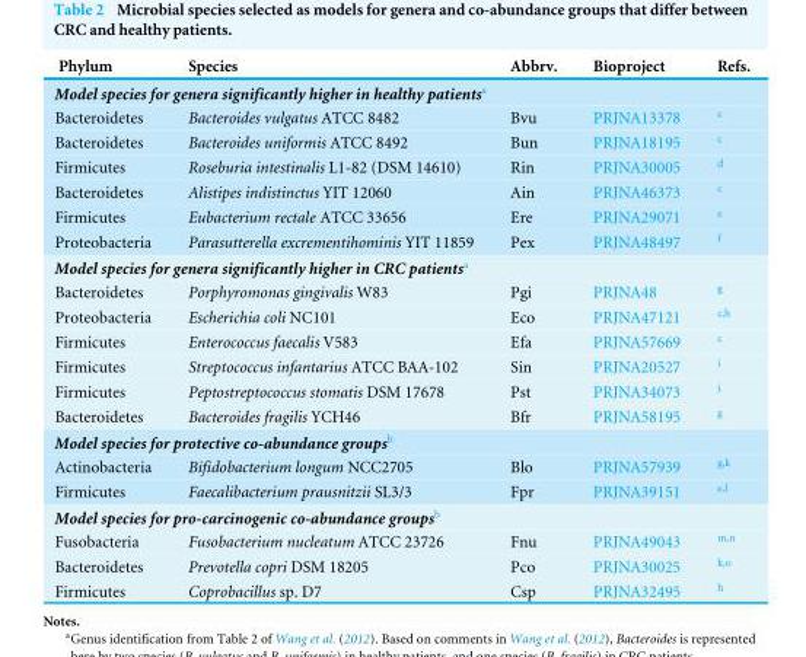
<table><thead><tr><td>Phylum</td><td>Species</td><td>Abbrv.</td><td>Bioproject</td><td>Refs.</td></tr></thead><tbody><tr><td colspan="5">Model species for genera significantly higher in healthy patients<sup>a</sup></td></tr><tr><td>Bacteroidetes</td><td>Bacteroides vulgatus ATCC 8482</td><td>Bvu</td><td>PRJNA13378</td><td><sup>c</sup></td></tr><tr><td>Bacteroidetes</td><td>Bacteroides uniformis ATCC 8492</td><td>Bun</td><td>PRJNA18195</td><td><sup>c</sup></td></tr><tr><td>Firmicutes</td><td>Roseburia intestinalis L1-82 (DSM 14610)</td><td>Rin</td><td>PRJNA30005</td><td><sup>d</sup></td></tr><tr><td>Bacteroidetes</td><td>Alistipes indistinctus YIT 12060</td><td>Ain</td><td>PRJNA46373</td><td><sup>c</sup></td></tr><tr><td>Firmicutes</td><td>Eubacterium rectale ATCC 33656</td><td>Ere</td><td>PRJNA29071</td><td><sup>e</sup></td></tr><tr><td>Proteobacteria</td><td>Parasutterella excrementihominis YIT 11859</td><td>Pex</td><td>PRJNA48497</td><td><sup>f</sup></td></tr><tr><td colspan="5">Model species for genera significantly higher in CRC patients<sup>a</sup></td></tr><tr><td>Bacteroidetes</td><td>Porphyromonas gingivalis W83</td><td>Pgi</td><td>PRJNA48</td><td><sup>g</sup></td></tr><tr><td>Proteobacteria</td><td>Escherichia coli NC101</td><td>Eco</td><td>PRJNA47121</td><td><sup>c,h</sup></td></tr><tr><td>Firmicutes</td><td>Enterococcus faecalis V583</td><td>Efa</td><td>PRJNA57669</td><td><sup>c</sup></td></tr><tr><td>Firmicutes</td><td>Streptococcus infantarius ATCC BAA-102</td><td>Sin</td><td>PRJNA20527</td><td><sup>i</sup></td></tr><tr><td>Firmicutes</td><td>Peptostreptococcus stomatis DSM 17678</td><td>Pst</td><td>PRJNA34073</td><td><sup>j</sup></td></tr><tr><td>Bacteroidetes</td><td>Bacteroides fragilis YCH46</td><td>Bfr</td><td>PRJNA58195</td><td><sup>g</sup></td></tr><tr><td colspan="5">Model species for protective co-abundance groups<sup>b</sup></td></tr><tr><td>Actinobacteria</td><td>Bifidobacterium longum NCC2705</td><td>Blo</td><td>PRJNA57939</td><td><sup>g,k</sup></td></tr><tr><td>Firmicutes</td><td>Faecalibacterium prausnitzii SL3/3</td><td>Fpr</td><td>PRJNA39151</td><td><sup>e,l</sup></td></tr><tr><td colspan="5">Model species for pro-carcinogenic co-abundance groups<sup>b</sup></td></tr><tr><td>Fusobacteria</td><td>Fusobacterium nucleatum ATCC 23726</td><td>Fnu</td><td>PRJNA49043</td><td><sup>m,n</sup></td></tr><tr><td>Bacteroidetes</td><td>Prevotella copri DSM 18205</td><td>Pco</td><td>PRJNA30025</td><td><sup>k,o</sup></td></tr><tr><td>Firmicutes</td><td>Coprobacillus sp. D7</td><td>Csp</td><td>PRJNA32495</td><td><sup>h</sup></td></tr></tbody></table>